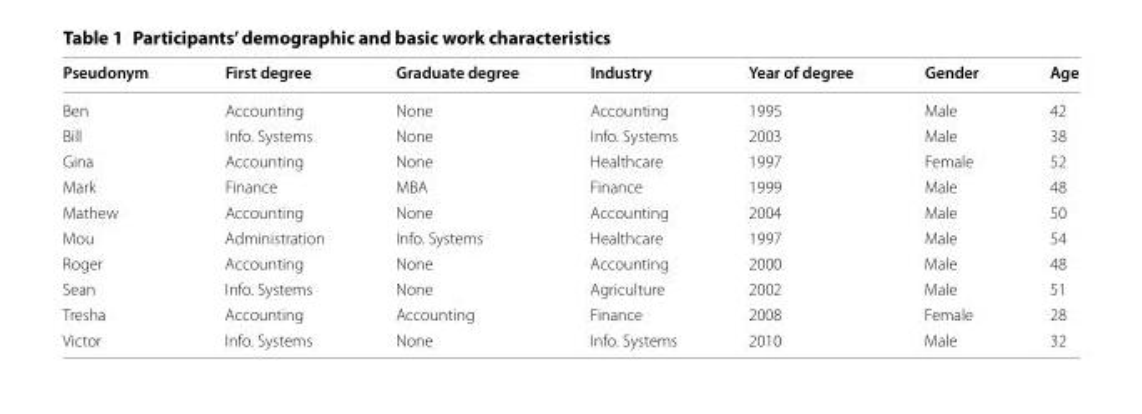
<table><thead><tr><td>Pseudonym</td><td>First degree</td><td>Graduate degree</td><td>Industry</td><td>Year of degree</td><td>Gender</td><td>Age</td></tr></thead><tbody><tr><td>Ben</td><td>Accounting</td><td>None</td><td>Accounting</td><td>1995</td><td>Male</td><td>42</td></tr><tr><td>Bill</td><td>Info. Systems</td><td>None</td><td>Info. Systems</td><td>2003</td><td>Male</td><td>38</td></tr><tr><td>Gina</td><td>Accounting</td><td>None</td><td>Healthcare</td><td>1997</td><td>Female</td><td>52</td></tr><tr><td>Mark</td><td>Finance</td><td>MBA</td><td>Finance</td><td>1999</td><td>Male</td><td>48</td></tr><tr><td>Mathew</td><td>Accounting</td><td>None</td><td>Accounting</td><td>2004</td><td>Male</td><td>50</td></tr><tr><td>Mou</td><td>Administration</td><td>Info. Systems</td><td>Healthcare</td><td>1997</td><td>Male</td><td>54</td></tr><tr><td>Roger</td><td>Accounting</td><td>None</td><td>Accounting</td><td>2000</td><td>Male</td><td>48</td></tr><tr><td>Sean</td><td>Info. Systems</td><td>None</td><td>Agriculture</td><td>2002</td><td>Male</td><td>51</td></tr><tr><td>Tresha</td><td>Accounting</td><td>Accounting</td><td>Finance</td><td>2008</td><td>Female</td><td>28</td></tr><tr><td>Victor</td><td>Info. Systems</td><td>None</td><td>Info. Systems</td><td>2010</td><td>Male</td><td>32</td></tr></tbody></table>